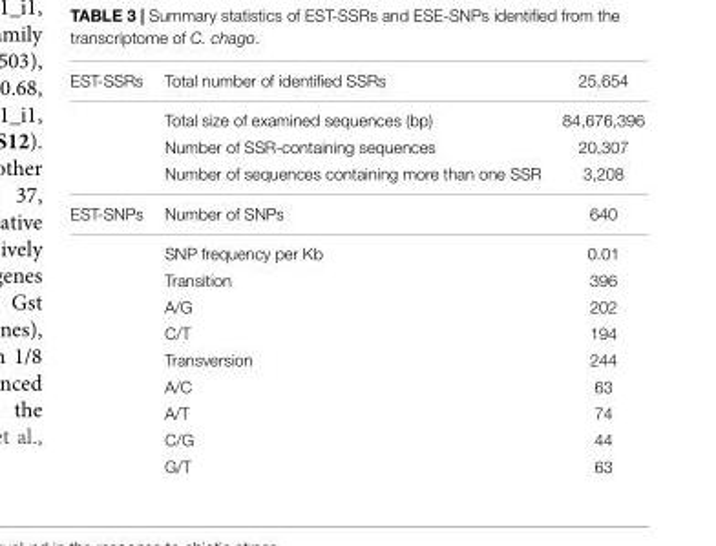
<table><thead><tr><td>EST-SSRs</td><td>Total number of identified SSRs</td><td>25,654</td></tr></thead><tbody><tr><td></td><td>Total size of examined sequences (bp)</td><td>84,676,396</td></tr><tr><td></td><td>Number of SSR-containing sequences</td><td>20,307</td></tr><tr><td></td><td>Number of sequences containing more than one SSR</td><td>3,208</td></tr><tr><td rowspan="10">EST-SNPs</td><td>Number of SNPs</td><td>640</td></tr><tr><td>SNP frequency per Kb</td><td>0.01</td></tr><tr><td>Transition</td><td>396</td></tr><tr><td>A/G</td><td>202</td></tr><tr><td>C/T</td><td>194</td></tr><tr><td>Transversion</td><td>244</td></tr><tr><td>A/C</td><td>63</td></tr><tr><td>A/T</td><td>74</td></tr><tr><td>C/G</td><td>44</td></tr><tr><td>G/T</td><td>63</td></tr></tbody></table>